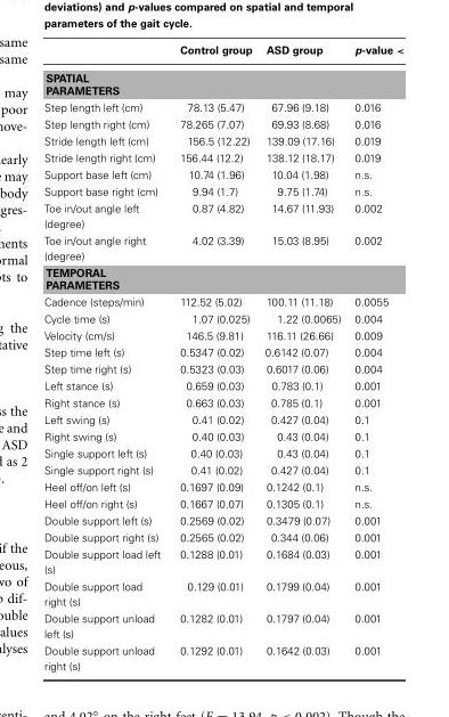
<table><thead><tr><td></td><td>Control group</td><td>ASD group</td><td>p-value &lt;</td></tr></thead><tbody><tr><td colspan="4">SPATIAL PARAMETERS</td></tr><tr><td>Step length left (cm)</td><td>78.13 (5.47)</td><td>67.96 (9.18)</td><td>0.016</td></tr><tr><td>Step length right (cm)</td><td>78.265 (7.07)</td><td>69.93 (8.68)</td><td>0.016</td></tr><tr><td>Stride length left (cm)</td><td>156.5 (12.22)</td><td>139.09 (17.16)</td><td>0.019</td></tr><tr><td>Stride length right (cm)</td><td>156.44 (12.2)</td><td>138.12 (18.17)</td><td>0.019</td></tr><tr><td>Support base left (cm)</td><td>10.74 (1.96)</td><td>10.04 (1.98)</td><td>n.s.</td></tr><tr><td>Support base right (cm)</td><td>9.94 (1.7)</td><td>9.75 (1.74)</td><td>n.s.</td></tr><tr><td>Toe in/out angle left (degree)</td><td>0.87 (4.82)</td><td>14.67 (11.93)</td><td>0.002</td></tr><tr><td>Toe in/out angle right (degree)</td><td>4.02 (3.39)</td><td>15.03 (8.95)</td><td>0.002</td></tr><tr><td colspan="4">TEMPORAL PARAMETERS</td></tr><tr><td>Cadence (steps/min)</td><td>112.52 (5.02)</td><td>100.11 (11.18)</td><td>0.0055</td></tr><tr><td>Cycle time (s)</td><td>1.07 (0.025)</td><td>1.22 (0.0065)</td><td>0.004</td></tr><tr><td>Velocity (cm/s)</td><td>146.5 (9.81)</td><td>116.11 (26.66)</td><td>0.009</td></tr><tr><td>Step time left (s)</td><td>0.5347 (0.02)</td><td>0.6142 (0.07)</td><td>0.004</td></tr><tr><td>Step time right (s)</td><td>0.5323 (0.03)</td><td>0.6017 (0.06)</td><td>0.004</td></tr><tr><td>Left stance (s)</td><td>0.659 (0.03)</td><td>0.783 (0.1)</td><td>0.001</td></tr><tr><td>Right stance (s)</td><td>0.663 (0.03)</td><td>0.785 (0.1)</td><td>0.001</td></tr><tr><td>Left swing (s)</td><td>0.41 (0.02)</td><td>0.427 (0.04)</td><td>0.1</td></tr><tr><td>Right swing (s)</td><td>0.40 (0.03)</td><td>0.43 (0.04)</td><td>0.1</td></tr><tr><td>Single support left (s)</td><td>0.40 (0.03)</td><td>0.43 (0.04)</td><td>0.1</td></tr><tr><td>Single support right (s)</td><td>0.41 (0.02)</td><td>0.427 (0.04)</td><td>0.1</td></tr><tr><td>Heel off/on left (s)</td><td>0.1697 (0.09)</td><td>0.1242 (0.1)</td><td>n.s.</td></tr><tr><td>Heel off/on right (s)</td><td>0.1667 (0.07)</td><td>0.1305 (0.1)</td><td>n.s.</td></tr><tr><td>Double support left (s)</td><td>0.2569 (0.02)</td><td>0.3479 (0.07)</td><td>0.001</td></tr><tr><td>Double support right (s)</td><td>0.2565 (0.02)</td><td>0.344 (0.06)</td><td>0.001</td></tr><tr><td>Double support load left (s)</td><td>0.1288 (0.01)</td><td>0.1684 (0.03)</td><td>0.001</td></tr><tr><td>Double support load right (s)</td><td>0.129 (0.01)</td><td>0.1799 (0.04)</td><td>0.001</td></tr><tr><td>Double support unload left (s)</td><td>0.1282 (0.01)</td><td>0.1797 (0.04)</td><td>0.001</td></tr><tr><td>Double support unload right (s)</td><td>0.1292 (0.01)</td><td>0.1642 (0.03)</td><td>0.001</td></tr></tbody></table>